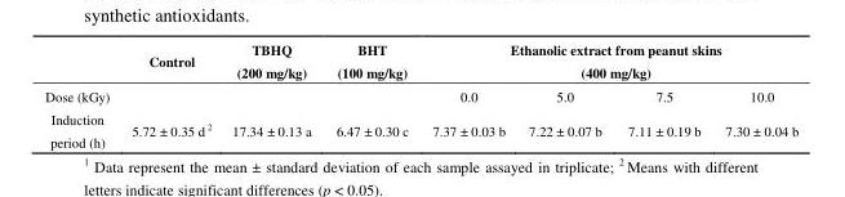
<table><thead><tr><td rowspan="2">Dose (kGy)</td><td rowspan="2">Control</td><td rowspan="2">TBHQ (200 mg/kg)</td><td rowspan="2">BHT (100 mg/kg)</td><td colspan="4">Ethanolic extract from peanut skins (400 mg/kg)</td></tr><tr><td>0.0</td><td>5.0</td><td>7.5</td><td>10.0</td></tr></thead><tbody><tr><td>Induction period (h)</td><td>5.72 ± 0.35 d 2</td><td>17.34 ± 0.13 a</td><td>6.47 ± 0.30 c</td><td>7.37 ± 0.03 b</td><td>7.22 ± 0.07 b</td><td>7.11 ± 0.19 b</td><td>7.30 ± 0.04 b</td></tr></tbody></table>